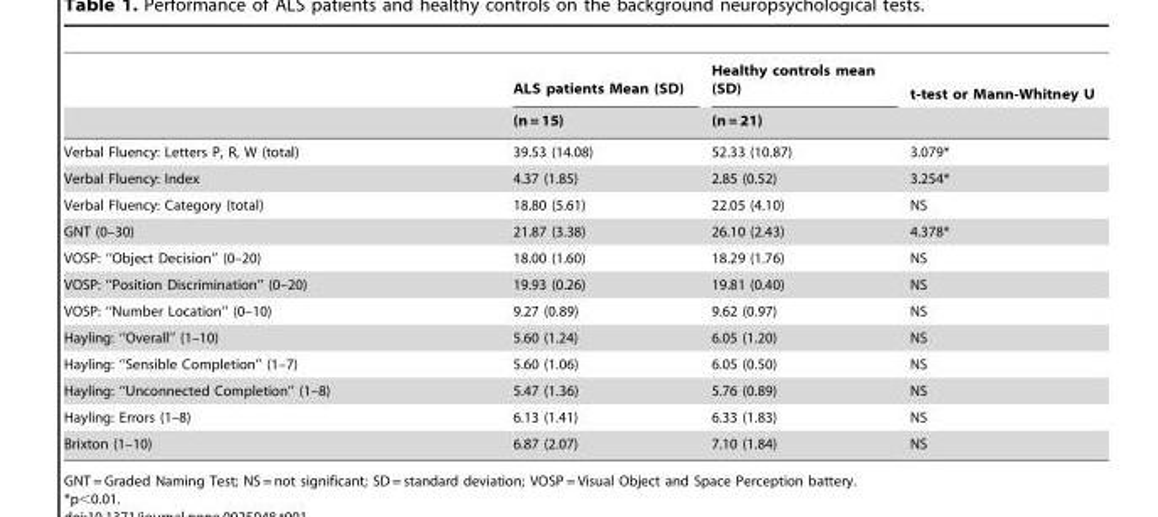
<table><thead><tr><td rowspan="2"></td><td rowspan="2">ALS patients Mean (SD) (n = 15)</td><td rowspan="2">Healthy controls mean (SD) (n = 21)</td><td rowspan="2">t-test or Mann-Whitney U</td></tr><tr></tr></thead><tbody><tr><td>Verbal Fluency: Letters P, R, W (total)</td><td>39.53 (14.08)</td><td>52.33 (10.87)</td><td>3.079*</td></tr><tr><td>Verbal Fluency: Index</td><td>4.37 (1.85)</td><td>2.85 (0.52)</td><td>3.254*</td></tr><tr><td>Verbal Fluency: Category (total)</td><td>18.80 (5.61)</td><td>22.05 (4.10)</td><td>NS</td></tr><tr><td>GNT (0–30)</td><td>21.87 (3.38)</td><td>26.10 (2.43)</td><td>4.378*</td></tr><tr><td>VOSP: ‘‘Object Decision’’ (0–20)</td><td>18.00 (1.60)</td><td>18.29 (1.76)</td><td>NS</td></tr><tr><td>VOSP: ‘‘Position Discrimination’’ (0–20)</td><td>19.93 (0.26)</td><td>19.81 (0.40)</td><td>NS</td></tr><tr><td>VOSP: ‘‘Number Location’’ (0–10)</td><td>9.27 (0.89)</td><td>9.62 (0.97)</td><td>NS</td></tr><tr><td>Hayling: ‘‘Overall’’ (1–10)</td><td>5.60 (1.24)</td><td>6.05 (1.20)</td><td>NS</td></tr><tr><td>Hayling: ‘‘Sensible Completion’’ (1–7)</td><td>5.60 (1.06)</td><td>6.05 (0.50)</td><td>NS</td></tr><tr><td>Hayling: ‘‘Unconnected Completion’’ (1–8)</td><td>5.47 (1.36)</td><td>5.76 (0.89)</td><td>NS</td></tr><tr><td>Hayling: Errors (1–8)</td><td>6.13 (1.41)</td><td>6.33 (1.83)</td><td>NS</td></tr><tr><td>Brixton (1–10)</td><td>6.87 (2.07)</td><td>7.10 (1.84)</td><td>NS</td></tr></tbody></table>